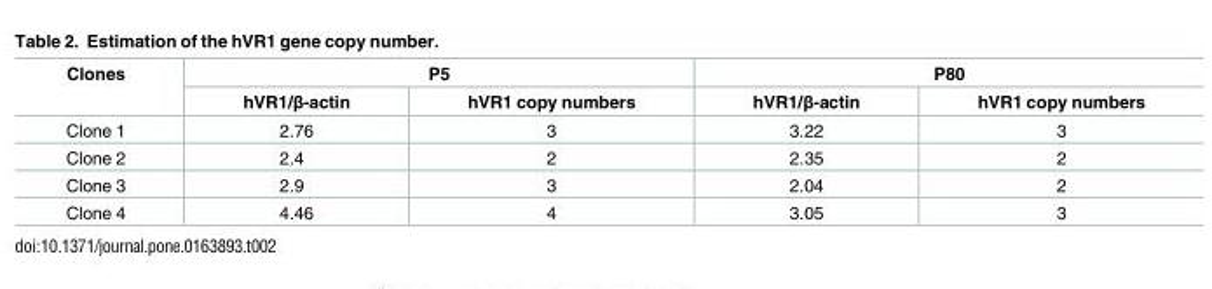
<table><thead><tr><td rowspan="2">Clones</td><td colspan="2">P5</td><td colspan="2">P80</td></tr><tr><td>hVR1/β-actin</td><td>hVR1 copy numbers</td><td>hVR1/β-actin</td><td>hVR1 copy numbers</td></tr></thead><tbody><tr><td>Clone 1</td><td>2.76</td><td>3</td><td>3.22</td><td>3</td></tr><tr><td>Clone 2</td><td>2.4</td><td>2</td><td>2.35</td><td>2</td></tr><tr><td>Clone 3</td><td>2.9</td><td>3</td><td>2.04</td><td>2</td></tr><tr><td>Clone 4</td><td>4.46</td><td>4</td><td>3.05</td><td>3</td></tr></tbody></table>